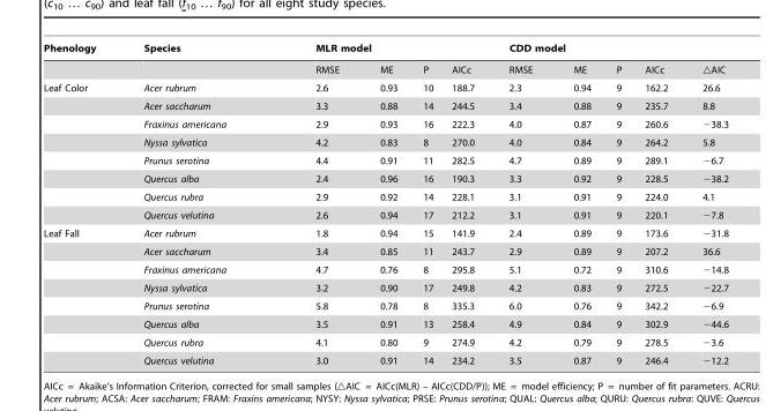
<table><thead><tr><td rowspan="2">Phenology</td><td rowspan="2">Species</td><td colspan="4">MLR model</td><td colspan="4">CDD model</td><td rowspan="2">△AIC</td></tr><tr><td>RMSE</td><td>ME</td><td>P</td><td>AICc</td><td>RMSE</td><td>ME</td><td>P</td><td>AICc</td></tr></thead><tbody><tr><td rowspan="8">Leaf Color</td><td>Acer rubrum</td><td>2.6</td><td>0.93</td><td>10</td><td>188.7</td><td>2.3</td><td>0.94</td><td>9</td><td>162.2</td><td>26.6</td></tr><tr><td>Acer saccharum</td><td>3.3</td><td>0.88</td><td>14</td><td>244.5</td><td>3.4</td><td>0.88</td><td>9</td><td>235.7</td><td>8.8</td></tr><tr><td>Fraxinus americana</td><td>2.9</td><td>0.93</td><td>16</td><td>222.3</td><td>4.0</td><td>0.87</td><td>9</td><td>260.6</td><td>−38.3</td></tr><tr><td>Nyssa sylvatica</td><td>4.2</td><td>0.83</td><td>8</td><td>270.0</td><td>4.0</td><td>0.84</td><td>9</td><td>264.2</td><td>5.8</td></tr><tr><td>Prunus serotina</td><td>4.4</td><td>0.91</td><td>11</td><td>282.5</td><td>4.7</td><td>0.89</td><td>9</td><td>289.1</td><td>−6.7</td></tr><tr><td>Quercus alba</td><td>2.4</td><td>0.96</td><td>16</td><td>190.3</td><td>3.3</td><td>0.92</td><td>9</td><td>228.5</td><td>−38.2</td></tr><tr><td>Quercus rubra</td><td>2.9</td><td>0.92</td><td>14</td><td>228.1</td><td>3.1</td><td>0.91</td><td>9</td><td>224.0</td><td>4.1</td></tr><tr><td>Quercus velutina</td><td>2.6</td><td>0.94</td><td>17</td><td>212.2</td><td>3.1</td><td>0.91</td><td>9</td><td>220.1</td><td>−7.8</td></tr><tr><td rowspan="8">Leaf Fall</td><td>Acer rubrum</td><td>1.8</td><td>0.94</td><td>15</td><td>141.9</td><td>2.4</td><td>0.89</td><td>9</td><td>173.6</td><td>−31.8</td></tr><tr><td>Acer saccharum</td><td>3.4</td><td>0.85</td><td>11</td><td>243.7</td><td>2.9</td><td>0.89</td><td>9</td><td>207.2</td><td>36.6</td></tr><tr><td>Fraxinus americana</td><td>4.7</td><td>0.76</td><td>8</td><td>295.8</td><td>5.1</td><td>0.72</td><td>9</td><td>310.6</td><td>−14.8</td></tr><tr><td>Nyssa sylvatica</td><td>3.2</td><td>0.90</td><td>17</td><td>249.8</td><td>4.2</td><td>0.83</td><td>9</td><td>272.5</td><td>−22.7</td></tr><tr><td>Prunus serotina</td><td>5.8</td><td>0.78</td><td>8</td><td>335.3</td><td>6.0</td><td>0.76</td><td>9</td><td>342.2</td><td>−6.9</td></tr><tr><td>Quercus alba</td><td>3.5</td><td>0.91</td><td>13</td><td>258.4</td><td>4.9</td><td>0.84</td><td>9</td><td>302.9</td><td>−44.6</td></tr><tr><td>Quercus rubra</td><td>4.1</td><td>0.80</td><td>9</td><td>274.9</td><td>4.2</td><td>0.79</td><td>9</td><td>278.5</td><td>−3.6</td></tr><tr><td>Quercus velutina</td><td>3.0</td><td>0.91</td><td>14</td><td>234.2</td><td>3.5</td><td>0.87</td><td>9</td><td>246.4</td><td>−12.2</td></tr></tbody></table>